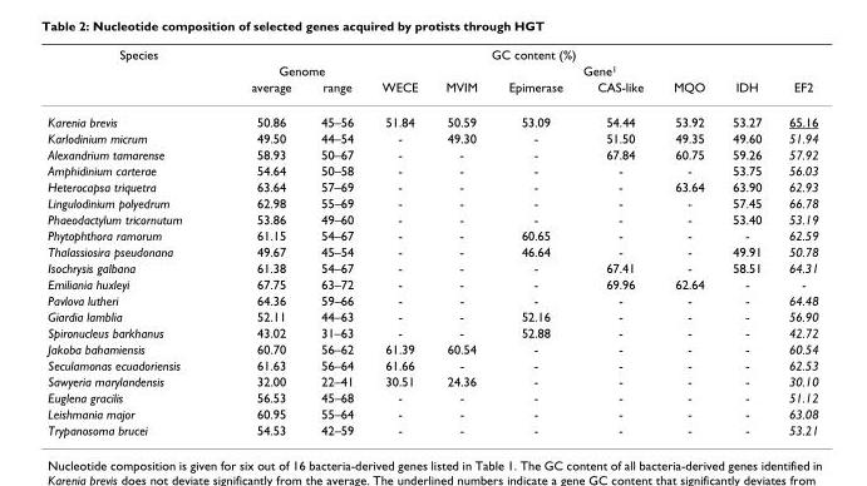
<table><thead><tr><td rowspan="3">Species</td><td colspan="9">GC content (%)</td></tr><tr><td colspan="2">Genome</td><td colspan="7">Gene<sup>1</sup></td></tr><tr><td>average</td><td>range</td><td>WECE</td><td>MVIM</td><td>Epimerase</td><td>CAS-like</td><td>MQO</td><td>IDH</td><td>EF2</td></tr></thead><tbody><tr><td>Karenia brevis</td><td>50.86</td><td>45–56</td><td>51.84</td><td>50.59</td><td>53.09</td><td>54.44</td><td>53.92</td><td>53.27</td><td>65.16</td></tr><tr><td>Karlodinium micrum</td><td>49.50</td><td>44–54</td><td>-</td><td>49.30</td><td>-</td><td>51.50</td><td>49.35</td><td>49.60</td><td>51.94</td></tr><tr><td>Alexandrium tamarense</td><td>58.93</td><td>50–67</td><td>-</td><td>-</td><td>-</td><td>67.84</td><td>60.75</td><td>59.26</td><td>57.92</td></tr><tr><td>Amphidinium carterae</td><td>54.64</td><td>50–58</td><td>-</td><td>-</td><td>-</td><td>-</td><td>-</td><td>53.75</td><td>56.03</td></tr><tr><td>Heterocapsa triquetra</td><td>63.64</td><td>57–69</td><td>-</td><td>-</td><td>-</td><td>-</td><td>63.64</td><td>63.90</td><td>62.93</td></tr><tr><td>Lingulodinium polyedrum</td><td>62.98</td><td>55–69</td><td>-</td><td>-</td><td>-</td><td>-</td><td>-</td><td>57.45</td><td>66.78</td></tr><tr><td>Phaeodactylum tricornutum</td><td>53.86</td><td>49–60</td><td>-</td><td>-</td><td>-</td><td>-</td><td>-</td><td>53.40</td><td>53.19</td></tr><tr><td>Phytophthora ramorum</td><td>61.15</td><td>54–67</td><td>-</td><td>-</td><td>60.65</td><td>-</td><td>-</td><td>-</td><td>62.59</td></tr><tr><td>Thalassiosira pseudonana</td><td>49.67</td><td>45–54</td><td>-</td><td>-</td><td>46.64</td><td>-</td><td>-</td><td>49.91</td><td>50.78</td></tr><tr><td>Isochrysis galbana</td><td>61.38</td><td>54–67</td><td>-</td><td>-</td><td>-</td><td>67.41</td><td>-</td><td>58.51</td><td>64.31</td></tr><tr><td>Emiliania huxleyi</td><td>67.75</td><td>63–72</td><td>-</td><td>-</td><td>-</td><td>69.96</td><td>62.64</td><td>-</td><td>-</td></tr><tr><td>Pavlova lutheri</td><td>64.36</td><td>59–66</td><td>-</td><td>-</td><td>-</td><td>-</td><td>-</td><td>-</td><td>64.48</td></tr><tr><td>Giardia lamblia</td><td>52.11</td><td>44–63</td><td>-</td><td>-</td><td>52.16</td><td>-</td><td>-</td><td>-</td><td>56.90</td></tr><tr><td>Spironucleus barkhanus</td><td>43.02</td><td>31–63</td><td>-</td><td>-</td><td>52.88</td><td>-</td><td>-</td><td>-</td><td>42.72</td></tr><tr><td>Jakoba bahamiensis</td><td>60.70</td><td>56–62</td><td>61.39</td><td>60.54</td><td>-</td><td>-</td><td>-</td><td>-</td><td>60.54</td></tr><tr><td>Seculamonas ecuadoriensis</td><td>61.63</td><td>56–64</td><td>61.66</td><td>-</td><td>-</td><td>-</td><td>-</td><td>-</td><td>62.53</td></tr><tr><td>Sawyeria marylandensis</td><td>32.00</td><td>22–41</td><td>30.51</td><td>24.36</td><td>-</td><td>-</td><td>-</td><td>-</td><td>30.10</td></tr><tr><td>Euglena gracilis</td><td>56.53</td><td>45–68</td><td>-</td><td>-</td><td>-</td><td>-</td><td>-</td><td>-</td><td>51.12</td></tr><tr><td>Leishmania major</td><td>60.95</td><td>55–64</td><td>-</td><td>-</td><td>-</td><td>-</td><td>-</td><td>-</td><td>63.08</td></tr><tr><td>Trypanosoma brucei</td><td>54.53</td><td>42–59</td><td>-</td><td>-</td><td>-</td><td>-</td><td>-</td><td>-</td><td>53.21</td></tr></tbody></table>